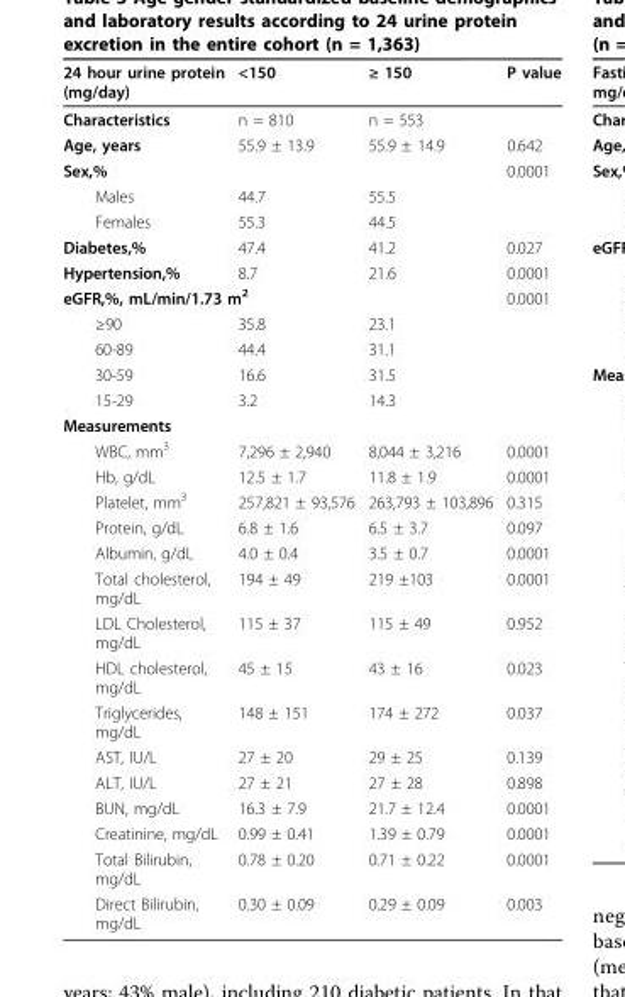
<table><thead><tr><td>24 hour urine protein (mg/day)</td><td>&lt;150</td><td>≥ 150</td><td>P value</td></tr></thead><tbody><tr><td>Characteristics</td><td>n = 810</td><td>n = 553</td><td></td></tr><tr><td>Age, years</td><td>55.9 ± 13.9</td><td>55.9 ± 14.9</td><td>0.642</td></tr><tr><td colspan="3">Sex,%</td><td>0.0001</td></tr><tr><td>Males</td><td>44.7</td><td>55.5</td><td></td></tr><tr><td>Females</td><td>55.3</td><td>44.5</td><td></td></tr><tr><td>Diabetes,%</td><td>47.4</td><td>41.2</td><td>0.027</td></tr><tr><td>Hypertension,%</td><td>8.7</td><td>21.6</td><td>0.0001</td></tr><tr><td colspan="3">eGFR,%, mL/min/1.73 m<sup>2</sup></td><td>0.0001</td></tr><tr><td>≥90</td><td>35.8</td><td>23.1</td><td></td></tr><tr><td>60-89</td><td>44.4</td><td>31.1</td><td></td></tr><tr><td>30-59</td><td>16.6</td><td>31.5</td><td></td></tr><tr><td>15-29</td><td>3.2</td><td>14.3</td><td></td></tr><tr><td colspan="4">Measurements</td></tr><tr><td>WBC, mm<sup>3</sup></td><td>7,296 ± 2,940</td><td>8,044 ± 3,216</td><td>0.0001</td></tr><tr><td>Hb, g/dL</td><td>12.5 ± 1.7</td><td>11.8 ± 1.9</td><td>0.0001</td></tr><tr><td>Platelet, mm<sup>3</sup></td><td>257,821 ± 93,576</td><td>263,793 ± 103,896</td><td>0.315</td></tr><tr><td>Protein, g/dL</td><td>6.8 ± 1.6</td><td>6.5 ± 3.7</td><td>0.097</td></tr><tr><td>Albumin, g/dL</td><td>4.0 ± 0.4</td><td>3.5 ± 0.7</td><td>0.0001</td></tr><tr><td>Total cholesterol, mg/dL</td><td>194 ± 49</td><td>219 ±103</td><td>0.0001</td></tr><tr><td>LDL Cholesterol, mg/dL</td><td>115 ± 37</td><td>115 ± 49</td><td>0.952</td></tr><tr><td>HDL cholesterol, mg/dL</td><td>45 ± 15</td><td>43 ± 16</td><td>0.023</td></tr><tr><td>Triglycerides, mg/dL</td><td>148 ± 151</td><td>174 ± 272</td><td>0.037</td></tr><tr><td>AST, IU/L</td><td>27 ± 20</td><td>29 ± 25</td><td>0.139</td></tr><tr><td>ALT, IU/L</td><td>27 ± 21</td><td>27 ± 28</td><td>0.898</td></tr><tr><td>BUN, mg/dL</td><td>16.3 ± 7.9</td><td>21.7 ± 12.4</td><td>0.0001</td></tr><tr><td>Creatinine, mg/dL</td><td>0.99 ± 0.41</td><td>1.39 ± 0.79</td><td>0.0001</td></tr><tr><td>Total Bilirubin, mg/dL</td><td>0.78 ± 0.20</td><td>0.71 ± 0.22</td><td>0.0001</td></tr><tr><td>Direct Bilirubin, mg/dL</td><td>0.30 ± 0.09</td><td>0.29 ± 0.09</td><td>0.003</td></tr></tbody></table>